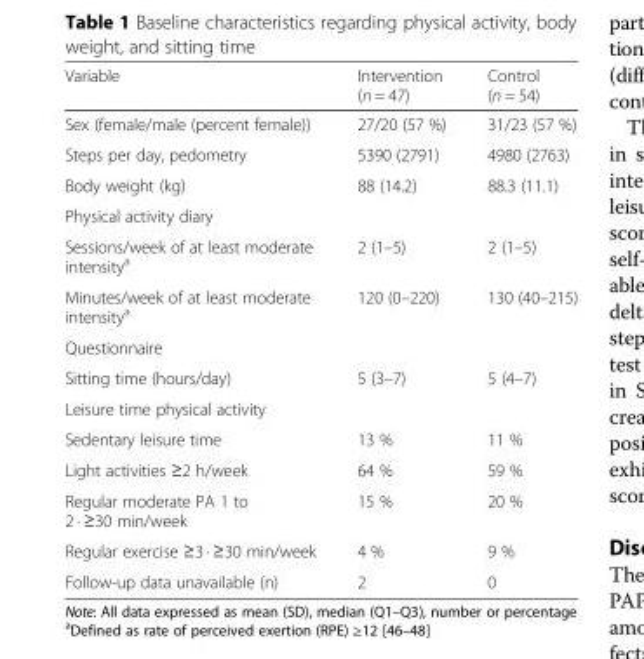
<table><thead><tr><td>Variable</td><td>Intervention (n = 47)</td><td>Control (n = 54)</td></tr></thead><tbody><tr><td>Sex (female/male (percent female))</td><td>27/20 (57 %)</td><td>31/23 (57 %)</td></tr><tr><td>Steps per day, pedometry</td><td>5390 (2791)</td><td>4980 (2763)</td></tr><tr><td>Body weight (kg)</td><td>88 (14.2)</td><td>88.3 (11.1)</td></tr><tr><td colspan="3">Physical activity diary</td></tr><tr><td>Sessions/week of at least moderate intensity<sup>a</sup></td><td>2 (1–5)</td><td>2 (1–5)</td></tr><tr><td>Minutes/week of at least moderate intensity<sup>a</sup></td><td>120 (0–220)</td><td>130 (40–215)</td></tr><tr><td colspan="3">Questionnaire</td></tr><tr><td>Sitting time (hours/day)</td><td>5 (3–7)</td><td>5 (4–7)</td></tr><tr><td colspan="3">Leisure time physical activity</td></tr><tr><td>Sedentary leisure time</td><td>13 %</td><td>11 %</td></tr><tr><td>Light activities ≥2 h/week</td><td>64 %</td><td>59 %</td></tr><tr><td>Regular moderate PA 1 to 2 · ≥30 min/week</td><td>15 %</td><td>20 %</td></tr><tr><td>Regular exercise ≥3 · ≥30 min/week</td><td>4 %</td><td>9 %</td></tr><tr><td>Follow-up data unavailable (n)</td><td>2</td><td>0</td></tr></tbody></table>